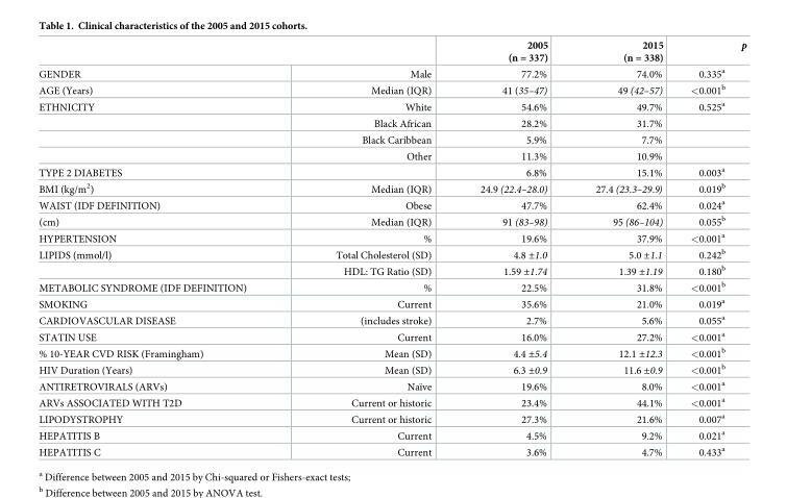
<table><thead><tr><td></td><td></td><td>2005 (n = 337)</td><td>2015 (n = 338)</td><td>p</td></tr></thead><tbody><tr><td>GENDER</td><td>Male</td><td>77.2%</td><td>74.0%</td><td>0.335<sup>a</sup></td></tr><tr><td>AGE (Years)</td><td>Median (IQR)</td><td>41 (35–47)</td><td>49 (42–57)</td><td>&lt;0.001<sup>b</sup></td></tr><tr><td rowspan="4">ETHNICITY</td><td>White</td><td>54.6%</td><td>49.7%</td><td>0.525<sup>a</sup></td></tr><tr><td>Black African</td><td>28.2%</td><td>31.7%</td><td></td></tr><tr><td>Black Caribbean</td><td>5.9%</td><td>7.7%</td><td></td></tr><tr><td>Other</td><td>11.3%</td><td>10.9%</td><td></td></tr><tr><td>TYPE 2 DIABETES</td><td></td><td>6.8%</td><td>15.1%</td><td>0.003<sup>a</sup></td></tr><tr><td>BMI (kg/m<sup>2</sup>)</td><td>Median (IQR)</td><td>24.9 (22.4–28.0)</td><td>27.4 (23.3–29.9)</td><td>0.019<sup>b</sup></td></tr><tr><td>WAIST (IDF DEFINITION)</td><td>Obese</td><td>47.7%</td><td>62.4%</td><td>0.024<sup>a</sup></td></tr><tr><td>(cm)</td><td>Median (IQR)</td><td>91 (83–98)</td><td>95 (86–104)</td><td>0.055<sup>b</sup></td></tr><tr><td>HYPERTENSION</td><td>%</td><td>19.6%</td><td>37.9%</td><td>&lt;0.001<sup>a</sup></td></tr><tr><td rowspan="2">LIPIDS (mmol/l)</td><td>Total Cholesterol (SD)</td><td>4.8 ±1.0</td><td>5.0 ±1.1</td><td>0.242<sup>b</sup></td></tr><tr><td>HDL: TG Ratio (SD)</td><td>1.59 ±1.74</td><td>1.39 ±1.19</td><td>0.180<sup>b</sup></td></tr><tr><td>METABOLIC SYNDROME (IDF DEFINITION)</td><td>%</td><td>22.5%</td><td>31.8%</td><td>&lt;0.001<sup>b</sup></td></tr><tr><td>SMOKING</td><td>Current</td><td>35.6%</td><td>21.0%</td><td>0.019<sup>a</sup></td></tr><tr><td>CARDIOVASCULAR DISEASE</td><td>(includes stroke)</td><td>2.7%</td><td>5.6%</td><td>0.055<sup>a</sup></td></tr><tr><td>STATIN USE</td><td>Current</td><td>16.0%</td><td>27.2%</td><td>&lt;0.001<sup>a</sup></td></tr><tr><td>% 10-YEAR CVD RISK (Framingham)</td><td>Mean (SD)</td><td>4.4 ±5.4</td><td>12.1 ±12.3</td><td>&lt;0.001<sup>b</sup></td></tr><tr><td>HIV Duration (Years)</td><td>Mean (SD)</td><td>6.3 ±0.9</td><td>11.6 ±0.9</td><td>&lt;0.001<sup>b</sup></td></tr><tr><td>ANTIRETROVIRALS (ARVs)</td><td>Naïve</td><td>19.6%</td><td>8.0%</td><td>&lt;0.001<sup>a</sup></td></tr><tr><td>ARVs ASSOCIATED WITH T2D</td><td>Current or historic</td><td>23.4%</td><td>44.1%</td><td>&lt;0.001<sup>a</sup></td></tr><tr><td>LIPODYSTROPHY</td><td>Current or historic</td><td>27.3%</td><td>21.6%</td><td>0.007<sup>a</sup></td></tr><tr><td>HEPATITIS B</td><td>Current</td><td>4.5%</td><td>9.2%</td><td>0.021<sup>a</sup></td></tr><tr><td>HEPATITIS C</td><td>Current</td><td>3.6%</td><td>4.7%</td><td>0.433<sup>a</sup></td></tr></tbody></table>